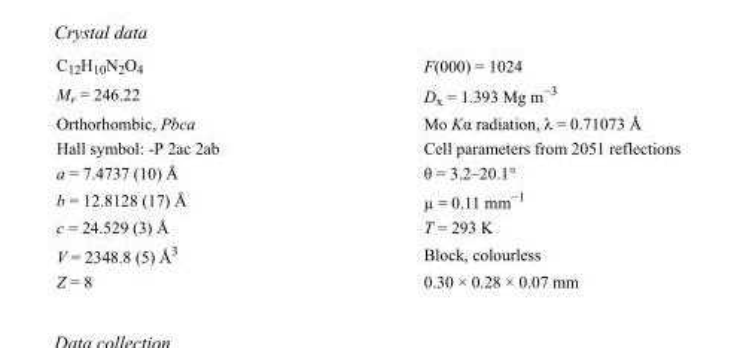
<table><tbody><tr><td>C<sub>12</sub>H<sub>10</sub>N<sub>2</sub>O<sub>4</sub></td><td>F(000) = 1024</td></tr><tr><td>M<sub>r</sub> = 246.22</td><td>D<sub>x</sub> = 1.393 Mg m<sup>−3</sup></td></tr><tr><td>Orthorhombic, Pbca</td><td>Mo Kα radiation, λ = 0.71073 Å</td></tr><tr><td>Hall symbol: -P 2ac 2ab</td><td>Cell parameters from 2051 reflections</td></tr><tr><td>a = 7.4737 (10) Å</td><td>θ = 3.2–20.1°</td></tr><tr><td>b = 12.8128 (17) Å</td><td>µ = 0.11 mm<sup>−1</sup></td></tr><tr><td>c = 24.529 (3) Å</td><td>T = 293 K</td></tr><tr><td>V = 2348.8 (5) Å<sup>3</sup></td><td>Block, colourless</td></tr><tr><td>Z = 8</td><td>0.30 × 0.28 × 0.07 mm</td></tr></tbody></table>